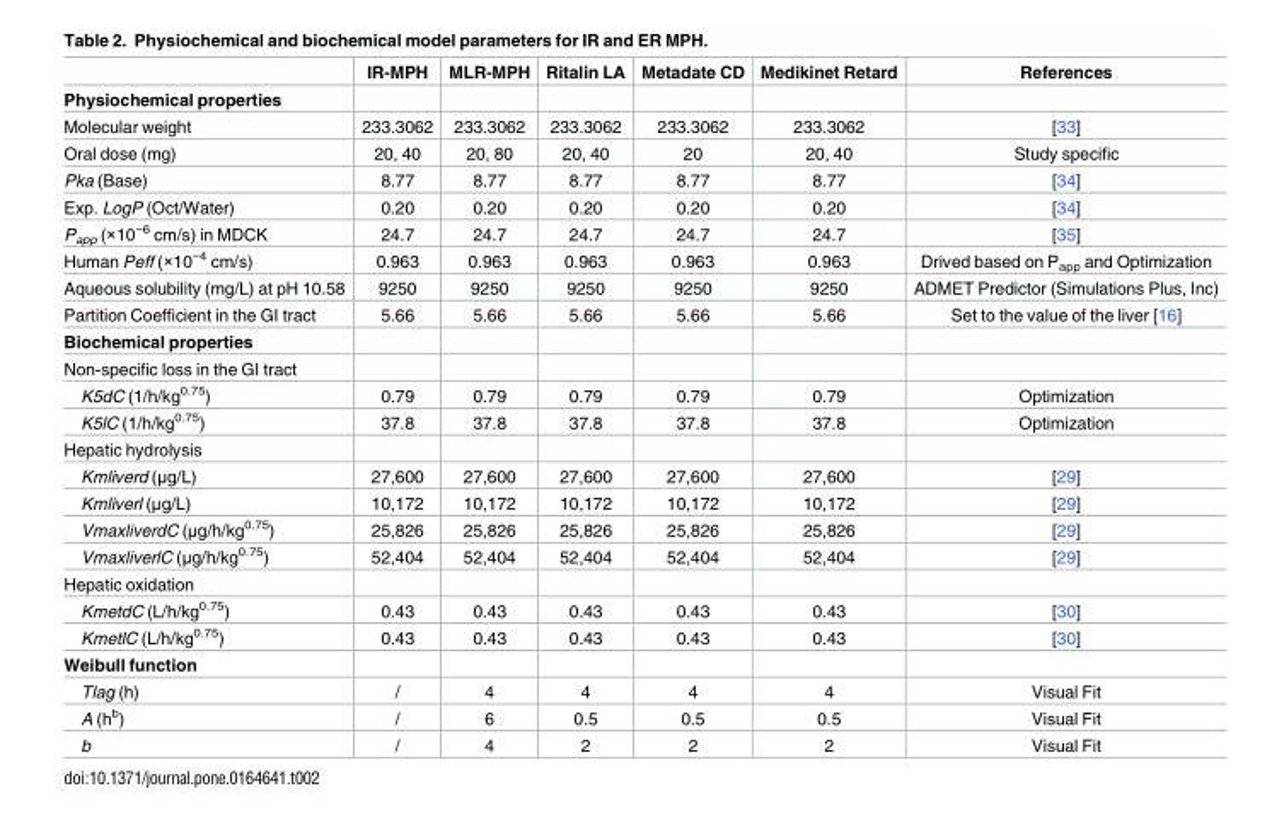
<table><thead><tr><td></td><td>IR-MPH</td><td>MLR-MPH</td><td>Ritalin LA</td><td>Metadate CD</td><td>Medikinet Retard</td><td>References</td></tr></thead><tbody><tr><td colspan="7">Physiochemical properties</td></tr><tr><td>Molecular weight</td><td>233.3062</td><td>233.3062</td><td>233.3062</td><td>233.3062</td><td>233.3062</td><td>[33]</td></tr><tr><td>Oral dose (mg)</td><td>20, 40</td><td>20, 80</td><td>20, 40</td><td>20</td><td>20, 40</td><td>Study specific</td></tr><tr><td>Pka (Base)</td><td>8.77</td><td>8.77</td><td>8.77</td><td>8.77</td><td>8.77</td><td>[34]</td></tr><tr><td>Exp. LogP (Oct/Water)</td><td>0.20</td><td>0.20</td><td>0.20</td><td>0.20</td><td>0.20</td><td>[34]</td></tr><tr><td>P<sub>app</sub> (×10<sup>−6</sup> cm/s) in MDCK</td><td>24.7</td><td>24.7</td><td>24.7</td><td>24.7</td><td>24.7</td><td>[35]</td></tr><tr><td>Human Peff (×10<sup>−4</sup> cm/s)</td><td>0.963</td><td>0.963</td><td>0.963</td><td>0.963</td><td>0.963</td><td>Drived based on P<sub>app</sub> and Optimization</td></tr><tr><td>Aqueous solubility (mg/L) at pH 10.58</td><td>9250</td><td>9250</td><td>9250</td><td>9250</td><td>9250</td><td>ADMET Predictor (Simulations Plus, Inc)</td></tr><tr><td>Partition Coefficient in the GI tract</td><td>5.66</td><td>5.66</td><td>5.66</td><td>5.66</td><td>5.66</td><td>Set to the value of the liver [16]</td></tr><tr><td colspan="7">Biochemical properties</td></tr><tr><td colspan="7">Non-specific loss in the GI tract</td></tr><tr><td>K5dC (1/h/kg<sup>0.75</sup>)</td><td>0.79</td><td>0.79</td><td>0.79</td><td>0.79</td><td>0.79</td><td>Optimization</td></tr><tr><td>K5lC (1/h/kg<sup>0.75</sup>)</td><td>37.8</td><td>37.8</td><td>37.8</td><td>37.8</td><td>37.8</td><td>Optimization</td></tr><tr><td colspan="7">Hepatic hydrolysis</td></tr><tr><td>Kmliverd (μg/L)</td><td>27,600</td><td>27,600</td><td>27,600</td><td>27,600</td><td>27,600</td><td>[29]</td></tr><tr><td>Kmliverl (μg/L)</td><td>10,172</td><td>10,172</td><td>10,172</td><td>10,172</td><td>10,172</td><td>[29]</td></tr><tr><td>VmaxliverdC (μg/h/kg<sup>0.75</sup>)</td><td>25,826</td><td>25,826</td><td>25,826</td><td>25,826</td><td>25,826</td><td>[29]</td></tr><tr><td>VmaxliverlC (μg/h/kg<sup>0.75</sup>)</td><td>52,404</td><td>52,404</td><td>52,404</td><td>52,404</td><td>52,404</td><td>[29]</td></tr><tr><td colspan="7">Hepatic oxidation</td></tr><tr><td>KmetdC (L/h/kg<sup>0.75</sup>)</td><td>0.43</td><td>0.43</td><td>0.43</td><td>0.43</td><td>0.43</td><td>[30]</td></tr><tr><td>KmetlC (L/h/kg<sup>0.75</sup>)</td><td>0.43</td><td>0.43</td><td>0.43</td><td>0.43</td><td>0.43</td><td>[30]</td></tr><tr><td colspan="7">Weibull function</td></tr><tr><td>Tlag (h)</td><td>/</td><td>4</td><td>4</td><td>4</td><td>4</td><td>Visual Fit</td></tr><tr><td>A (h<sup>b</sup>)</td><td>/</td><td>6</td><td>0.5</td><td>0.5</td><td>0.5</td><td>Visual Fit</td></tr><tr><td>b</td><td>/</td><td>4</td><td>2</td><td>2</td><td>2</td><td>Visual Fit</td></tr></tbody></table>